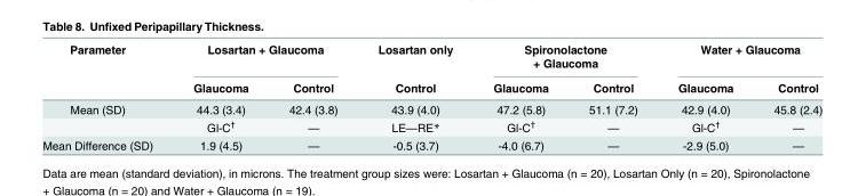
<table><thead><tr><td rowspan="2">Parameter</td><td colspan="2">Losartan + Glaucoma</td><td rowspan="2">Losartan only Control</td><td colspan="2">Spironolactone + Glaucoma</td><td colspan="2">Water + Glaucoma</td></tr><tr><td>Glaucoma</td><td>Control</td><td>Glaucoma</td><td>Control</td><td>Glaucoma</td><td>Control</td></tr></thead><tbody><tr><td rowspan="2">Mean (SD)</td><td>44.3 (3.4)</td><td>42.4 (3.8)</td><td>43.9 (4.0)</td><td>47.2 (5.8)</td><td>51.1 (7.2)</td><td>42.9 (4.0)</td><td>45.8 (2.4)</td></tr><tr><td>Gl-C<sup>†</sup></td><td>—</td><td>LE—RE*</td><td>Gl-C<sup>†</sup></td><td>—</td><td>Gl-C<sup>†</sup></td><td>—</td></tr><tr><td>Mean Difference (SD)</td><td>1.9 (4.5)</td><td>—</td><td>-0.5 (3.7)</td><td>-4.0 (6.7)</td><td>—</td><td>-2.9 (5.0)</td><td>—</td></tr></tbody></table>